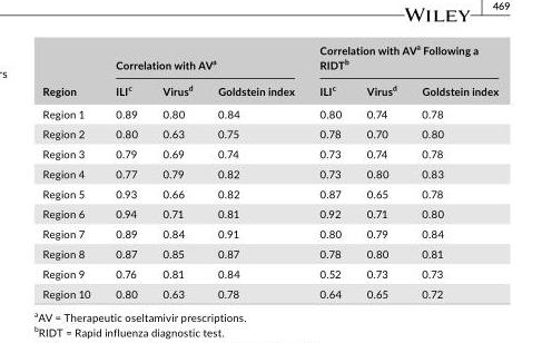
<table><thead><tr><td rowspan="2">Region</td><td colspan="3">Correlation with AV<sup>a</sup></td><td colspan="3">Correlation with AV<sup>a</sup> Following a RIDT<sup>b</sup></td></tr><tr><td>ILI<sup>c</sup></td><td>Virus<sup>d</sup></td><td>Goldstein index</td><td>ILI<sup>c</sup></td><td>Virus<sup>d</sup></td><td>Goldstein index</td></tr></thead><tbody><tr><td>Region 1</td><td>0.89</td><td>0.80</td><td>0.84</td><td>0.80</td><td>0.74</td><td>0.78</td></tr><tr><td>Region 2</td><td>0.80</td><td>0.63</td><td>0.75</td><td>0.78</td><td>0.70</td><td>0.80</td></tr><tr><td>Region 3</td><td>0.79</td><td>0.69</td><td>0.74</td><td>0.73</td><td>0.74</td><td>0.78</td></tr><tr><td>Region 4</td><td>0.77</td><td>0.79</td><td>0.82</td><td>0.73</td><td>0.80</td><td>0.83</td></tr><tr><td>Region 5</td><td>0.93</td><td>0.66</td><td>0.82</td><td>0.87</td><td>0.65</td><td>0.78</td></tr><tr><td>Region 6</td><td>0.94</td><td>0.71</td><td>0.81</td><td>0.92</td><td>0.71</td><td>0.80</td></tr><tr><td>Region 7</td><td>0.89</td><td>0.84</td><td>0.91</td><td>0.80</td><td>0.79</td><td>0.84</td></tr><tr><td>Region 8</td><td>0.87</td><td>0.85</td><td>0.87</td><td>0.78</td><td>0.80</td><td>0.81</td></tr><tr><td>Region 9</td><td>0.76</td><td>0.81</td><td>0.84</td><td>0.52</td><td>0.73</td><td>0.73</td></tr><tr><td>Region 10</td><td>0.80</td><td>0.63</td><td>0.78</td><td>0.64</td><td>0.65</td><td>0.72</td></tr></tbody></table>